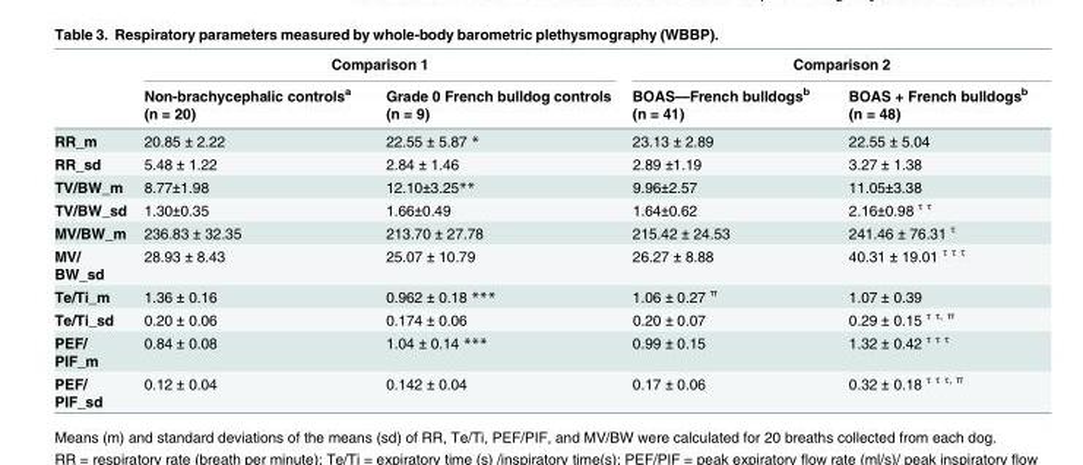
<table><thead><tr><td rowspan="2"></td><td colspan="2">Comparison 1</td><td colspan="2">Comparison 2</td></tr><tr><td>Non-brachycephalic controls<sup>a</sup> (n = 20)</td><td>Grade 0 French bulldog controls (n = 9)</td><td>BOAS—French bulldogs<sup>b</sup> (n = 41)</td><td>BOAS + French bulldogs<sup>b</sup> (n = 48)</td></tr></thead><tbody><tr><td>RR_m</td><td>20.85 ± 2.22</td><td>22.55 ± 5.87 *</td><td>23.13 ± 2.89</td><td>22.55 ± 5.04</td></tr><tr><td>RR_sd</td><td>5.48 ± 1.22</td><td>2.84 ± 1.46</td><td>2.89 ±1.19</td><td>3.27 ± 1.38</td></tr><tr><td>TV/BW_m</td><td>8.77±1.98</td><td>12.10±3.25**</td><td>9.96±2.57</td><td>11.05±3.38</td></tr><tr><td>TV/BW_sd</td><td>1.30±0.35</td><td>1.66±0.49</td><td>1.64±0.62</td><td>2.16±0.98 <sup>τ τ</sup></td></tr><tr><td>MV/BW_m</td><td>236.83 ± 32.35</td><td>213.70 ± 27.78</td><td>215.42 ± 24.53</td><td>241.46 ± 76.31 <sup>τ</sup></td></tr><tr><td>MV/ BW_sd</td><td>28.93 ± 8.43</td><td>25.07 ± 10.79</td><td>26.27 ± 8.88</td><td>40.31 ± 19.01 <sup>τ τ τ</sup></td></tr><tr><td>Te/Ti_m</td><td>1.36 ± 0.16</td><td>0.962 ± 0.18 ***</td><td>1.06 ± 0.27 <sup>π</sup></td><td>1.07 ± 0.39</td></tr><tr><td>Te/Ti_sd</td><td>0.20 ± 0.06</td><td>0.174 ± 0.06</td><td>0.20 ± 0.07</td><td>0.29 ± 0.15 <sup>τ τ, π</sup></td></tr><tr><td>PEF/ PIF_m</td><td>0.84 ± 0.08</td><td>1.04 ± 0.14 ***</td><td>0.99 ± 0.15</td><td>1.32 ± 0.42 <sup>τ τ τ</sup></td></tr><tr><td>PEF/ PIF_sd</td><td>0.12 ± 0.04</td><td>0.142 ± 0.04</td><td>0.17 ± 0.06</td><td>0.32 ± 0.18 <sup>τ τ τ, π</sup></td></tr></tbody></table>